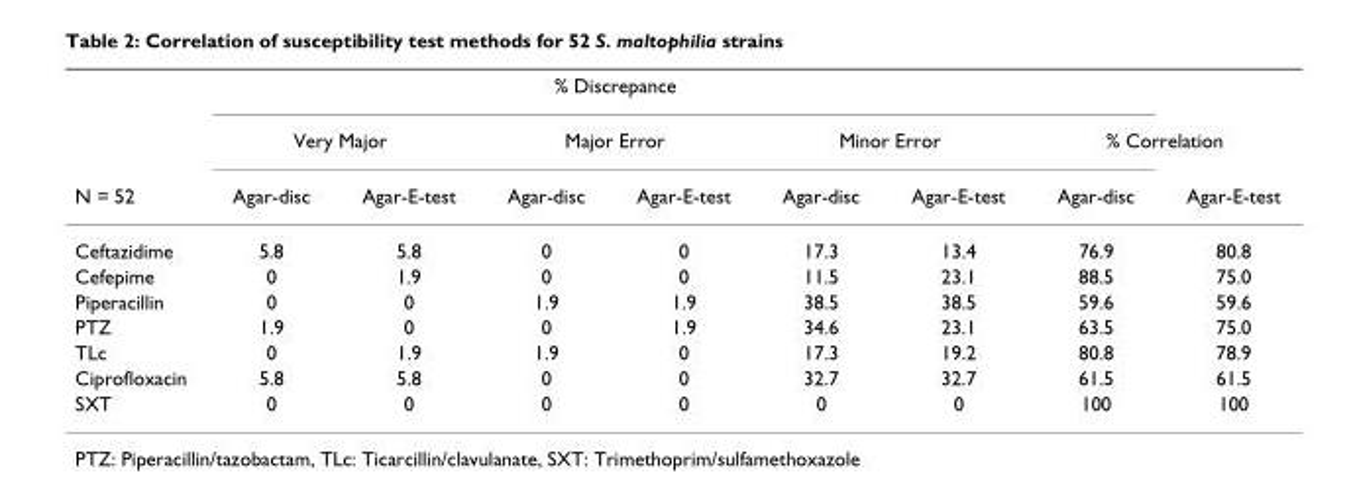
<table><thead><tr><td rowspan="3">N = 52</td><td colspan="6">% Discrepance</td><td></td><td></td></tr><tr><td colspan="2">Very Major</td><td colspan="2">Major Error</td><td colspan="2">Minor Error</td><td colspan="2">% Correlation</td></tr><tr><td>Agar-disc</td><td>Agar-E-test</td><td>Agar-disc</td><td>Agar-E-test</td><td>Agar-disc</td><td>Agar-E-test</td><td>Agar-disc</td><td>Agar-E-test</td></tr></thead><tbody><tr><td>Ceftazidime</td><td>5.8</td><td>5.8</td><td>0</td><td>0</td><td>17.3</td><td>13.4</td><td>76.9</td><td>80.8</td></tr><tr><td>Cefepime</td><td>0</td><td>1.9</td><td>0</td><td>0</td><td>11.5</td><td>23.1</td><td>88.5</td><td>75.0</td></tr><tr><td>Piperacillin</td><td>0</td><td>0</td><td>1.9</td><td>1.9</td><td>38.5</td><td>38.5</td><td>59.6</td><td>59.6</td></tr><tr><td>PTZ</td><td>1.9</td><td>0</td><td>0</td><td>1.9</td><td>34.6</td><td>23.1</td><td>63.5</td><td>75.0</td></tr><tr><td>TLc</td><td>0</td><td>1.9</td><td>1.9</td><td>0</td><td>17.3</td><td>19.2</td><td>80.8</td><td>78.9</td></tr><tr><td>Ciprofloxacin</td><td>5.8</td><td>5.8</td><td>0</td><td>0</td><td>32.7</td><td>32.7</td><td>61.5</td><td>61.5</td></tr><tr><td>SXT</td><td>0</td><td>0</td><td>0</td><td>0</td><td>0</td><td>0</td><td>100</td><td>100</td></tr></tbody></table>